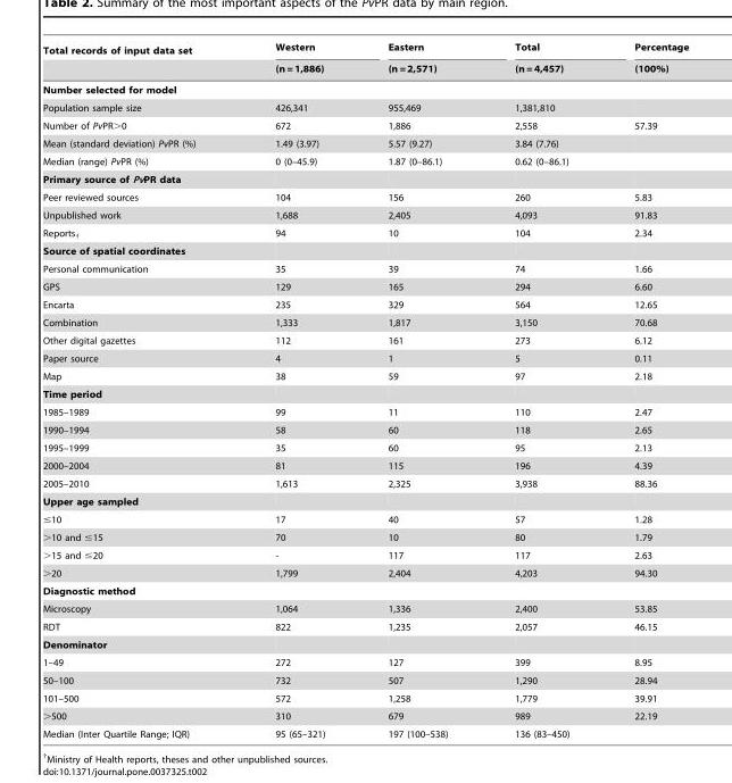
<table><thead><tr><td rowspan="2">Total records of input data set</td><td rowspan="2">Western (n = 1,886)</td><td rowspan="2">Eastern (n = 2,571)</td><td rowspan="2">Total (n = 4,457)</td><td rowspan="2">Percentage (100%)</td></tr><tr></tr></thead><tbody><tr><td colspan="5">Number selected for model</td></tr><tr><td>Population sample size</td><td>426,341</td><td>955,469</td><td>1,381,810</td><td></td></tr><tr><td>Number of PvPR&gt;0</td><td>672</td><td>1,886</td><td>2,558</td><td>57.39</td></tr><tr><td>Mean (standard deviation) PvPR (%)</td><td>1.49 (3.97)</td><td>5.57 (9.27)</td><td>3.84 (7.76)</td><td></td></tr><tr><td>Median (range) PvPR (%)</td><td>0 (0–45.9)</td><td>1.87 (0–86.1)</td><td>0.62 (0–86.1)</td><td></td></tr><tr><td colspan="5">Primary source of PvPR data</td></tr><tr><td>Peer reviewed sources</td><td>104</td><td>156</td><td>260</td><td>5.83</td></tr><tr><td>Unpublished work</td><td>1,688</td><td>2,405</td><td>4,093</td><td>91.83</td></tr><tr><td>Reports†</td><td>94</td><td>10</td><td>104</td><td>2.34</td></tr><tr><td colspan="5">Source of spatial coordinates</td></tr><tr><td>Personal communication</td><td>35</td><td>39</td><td>74</td><td>1.66</td></tr><tr><td>GPS</td><td>129</td><td>165</td><td>294</td><td>6.60</td></tr><tr><td>Encarta</td><td>235</td><td>329</td><td>564</td><td>12.65</td></tr><tr><td>Combination</td><td>1,333</td><td>1,817</td><td>3,150</td><td>70.68</td></tr><tr><td>Other digital gazettes</td><td>112</td><td>161</td><td>273</td><td>6.12</td></tr><tr><td>Paper source</td><td>4</td><td>1</td><td>5</td><td>0.11</td></tr><tr><td>Map</td><td>38</td><td>59</td><td>97</td><td>2.18</td></tr><tr><td colspan="5">Time period</td></tr><tr><td>1985–1989</td><td>99</td><td>11</td><td>110</td><td>2.47</td></tr><tr><td>1990–1994</td><td>58</td><td>60</td><td>118</td><td>2.65</td></tr><tr><td>1995–1999</td><td>35</td><td>60</td><td>95</td><td>2.13</td></tr><tr><td>2000–2004</td><td>81</td><td>115</td><td>196</td><td>4.39</td></tr><tr><td>2005–2010</td><td>1,613</td><td>2,325</td><td>3,938</td><td>88.36</td></tr><tr><td colspan="5">Upper age sampled</td></tr><tr><td>≤10</td><td>17</td><td>40</td><td>57</td><td>1.28</td></tr><tr><td>&gt;10 and ≤15</td><td>70</td><td>10</td><td>80</td><td>1.79</td></tr><tr><td>&gt;15 and ≤20</td><td>-</td><td>117</td><td>117</td><td>2.63</td></tr><tr><td>&gt;20</td><td>1,799</td><td>2,404</td><td>4,203</td><td>94.30</td></tr><tr><td colspan="5">Diagnostic method</td></tr><tr><td>Microscopy</td><td>1,064</td><td>1,336</td><td>2,400</td><td>53.85</td></tr><tr><td>RDT</td><td>822</td><td>1,235</td><td>2,057</td><td>46.15</td></tr><tr><td colspan="5">Denominator</td></tr><tr><td>1–49</td><td>272</td><td>127</td><td>399</td><td>8.95</td></tr><tr><td>50–100</td><td>732</td><td>507</td><td>1,290</td><td>28.94</td></tr><tr><td>101–500</td><td>572</td><td>1,258</td><td>1,779</td><td>39.91</td></tr><tr><td>&gt;500</td><td>310</td><td>679</td><td>989</td><td>22.19</td></tr><tr><td>Median (Inter Quartile Range; IQR)</td><td>95 (65–321)</td><td>197 (100–538)</td><td>136 (83–450)</td><td></td></tr></tbody></table>